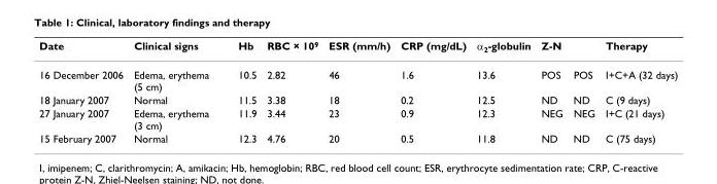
<table><thead><tr><td>Date</td><td>Clinical signs</td><td>Hb</td><td>RBC × 10<sup>9</sup></td><td>ESR (mm/h)</td><td>CRP (mg/dL)</td><td>α<sub>2</sub>-globulin</td><td>Z-N</td><td></td><td>Therapy</td></tr></thead><tbody><tr><td>16 December 2006</td><td>Edema, erythema (5 cm)</td><td>10.5</td><td>2.82</td><td>46</td><td>1.6</td><td>13.6</td><td>POS</td><td>POS</td><td>I+C+A (32 days)</td></tr><tr><td>18 January 2007</td><td>Normal</td><td>11.5</td><td>3.38</td><td>18</td><td>0.2</td><td>12.5</td><td>ND</td><td>ND</td><td>C (9 days)</td></tr><tr><td>27 January 2007</td><td>Edema, erythema (3 cm)</td><td>11.9</td><td>3.44</td><td>23</td><td>0.9</td><td>12.3</td><td>NEG</td><td>NEG</td><td>I+C (21 days)</td></tr><tr><td>15 February 2007</td><td>Normal</td><td>12.3</td><td>4.76</td><td>20</td><td>0.5</td><td>11.8</td><td>ND</td><td>ND</td><td>C (75 days)</td></tr></tbody></table>